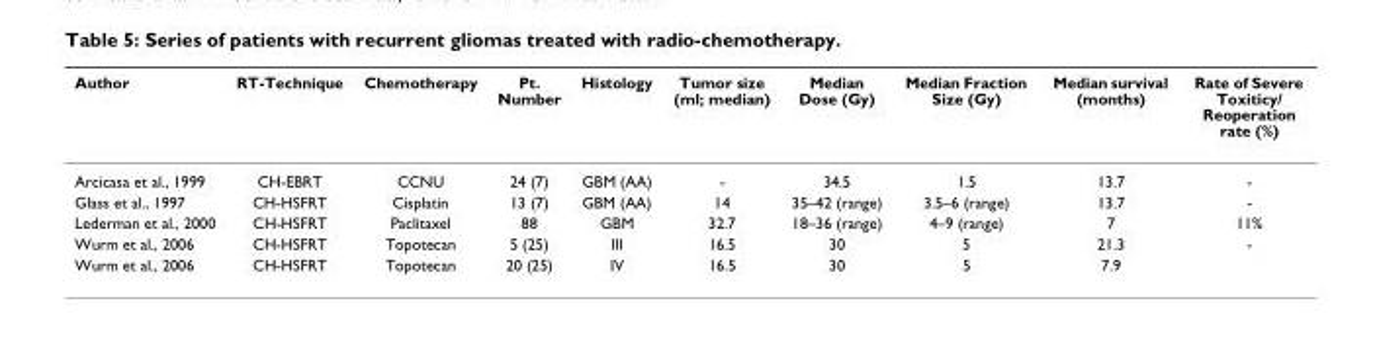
<table><thead><tr><td>Author</td><td>RT-Technique</td><td>Chemotherapy</td><td>Pt. Number</td><td>Histology</td><td>Tumor size (ml; median)</td><td>Median Dose (Gy)</td><td>Median Fraction Size (Gy)</td><td>Median survival (months)</td><td>Rate of Severe Toxiticy/ Reoperation rate (%)</td></tr></thead><tbody><tr><td>Arcicasa et al., 1999</td><td>CH-EBRT</td><td>CCNU</td><td>24 (7)</td><td>GBM (AA)</td><td>-</td><td>34.5</td><td>1.5</td><td>13.7</td><td>-</td></tr><tr><td>Glass et al., 1997</td><td>CH-HSFRT</td><td>Cisplatin</td><td>13 (7)</td><td>GBM (AA)</td><td>14</td><td>35–42 (range)</td><td>3.5–6 (range)</td><td>13.7</td><td>-</td></tr><tr><td>Lederman et al., 2000</td><td>CH-HSFRT</td><td>Paclitaxel</td><td>88</td><td>GBM</td><td>32.7</td><td>18–36 (range)</td><td>4–9 (range)</td><td>7</td><td>11%</td></tr><tr><td>Wurm et al., 2006</td><td>CH-HSFRT</td><td>Topotecan</td><td>5 (25)</td><td>III</td><td>16.5</td><td>30</td><td>5</td><td>21.3</td><td>-</td></tr><tr><td>Wurm et al., 2006</td><td>CH-HSFRT</td><td>Topotecan</td><td>20 (25)</td><td>IV</td><td>16.5</td><td>30</td><td>5</td><td>7.9</td><td></td></tr></tbody></table>